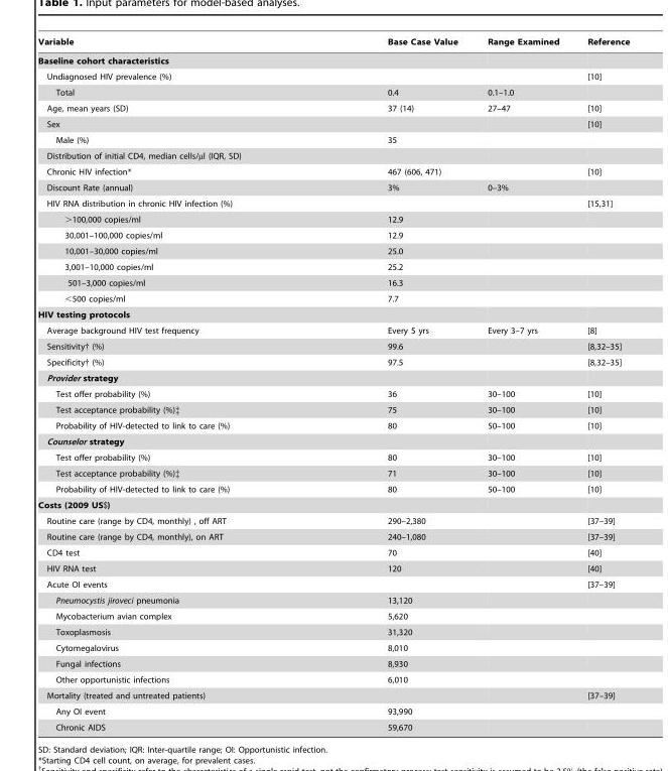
<table><thead><tr><td>Variable</td><td>Base Case Value</td><td>Range Examined</td><td>Reference</td></tr></thead><tbody><tr><td colspan="4">Baseline cohort characteristics</td></tr><tr><td colspan="2">Undiagnosed HIV prevalence (%)</td><td></td><td>[10]</td></tr><tr><td>Total</td><td>0.4</td><td>0.1–1.0</td><td></td></tr><tr><td>Age, mean years (SD)</td><td>37 (14)</td><td>27–47</td><td>[10]</td></tr><tr><td>Sex</td><td></td><td></td><td>[10]</td></tr><tr><td>Male (%)</td><td>35</td><td></td><td></td></tr><tr><td colspan="4">Distribution of initial CD4, median cells/µl (IQR, SD)</td></tr><tr><td>Chronic HIV infection*</td><td>467 (606, 471)</td><td></td><td>[10]</td></tr><tr><td>Discount Rate (annual)</td><td>3%</td><td>0–3%</td><td></td></tr><tr><td colspan="2">HIV RNA distribution in chronic HIV infection (%)</td><td></td><td>[15,31]</td></tr><tr><td>&gt;100,000 copies/ml</td><td>12.9</td><td></td><td></td></tr><tr><td>30,001–100,000 copies/ml</td><td>12.9</td><td></td><td></td></tr><tr><td>10,001–30,000 copies/ml</td><td>25.0</td><td></td><td></td></tr><tr><td>3,001–10,000 copies/ml</td><td>25.2</td><td></td><td></td></tr><tr><td>501–3,000 copies/ml</td><td>16.3</td><td></td><td></td></tr><tr><td>&lt;500 copies/ml</td><td>7.7</td><td></td><td></td></tr><tr><td colspan="4">HIV testing protocols</td></tr><tr><td>Average background HIV test frequency</td><td>Every 5 yrs</td><td>Every 3–7 yrs</td><td>[8]</td></tr><tr><td>Sensitivity† (%)</td><td>99.6</td><td></td><td>[8,32–35]</td></tr><tr><td>Specificity† (%)</td><td>97.5</td><td></td><td>[8,32–35]</td></tr><tr><td colspan="4">Provider strategy</td></tr><tr><td>Test offer probability (%)</td><td>36</td><td>30–100</td><td>[10]</td></tr><tr><td>Test acceptance probability (%)‡</td><td>75</td><td>30–100</td><td>[10]</td></tr><tr><td>Probability of HIV-detected to link to care (%)</td><td>80</td><td>50–100</td><td>[10]</td></tr><tr><td colspan="4">Counselor strategy</td></tr><tr><td>Test offer probability (%)</td><td>80</td><td>30–100</td><td>[10]</td></tr><tr><td>Test acceptance probability (%)‡</td><td>71</td><td>30–100</td><td>[10]</td></tr><tr><td>Probability of HIV-detected to link to care (%)</td><td>80</td><td>50–100</td><td>[10]</td></tr><tr><td colspan="4">Costs (2009 US$)</td></tr><tr><td>Routine care (range by CD4, monthly) , off ART</td><td>290–2,380</td><td></td><td>[37–39]</td></tr><tr><td>Routine care (range by CD4, monthly), on ART</td><td>240–1,080</td><td></td><td>[37–39]</td></tr><tr><td>CD4 test</td><td>70</td><td></td><td>[40]</td></tr><tr><td>HIV RNA test</td><td>120</td><td></td><td>[40]</td></tr><tr><td>Acute OI events</td><td></td><td></td><td>[37–39]</td></tr><tr><td>Pneumocystis jiroveci pneumonia</td><td>13,120</td><td></td><td></td></tr><tr><td>Mycobacterium avian complex</td><td>5,620</td><td></td><td></td></tr><tr><td>Toxoplasmosis</td><td>31,320</td><td></td><td></td></tr><tr><td>Cytomegalovirus</td><td>8,010</td><td></td><td></td></tr><tr><td>Fungal infections</td><td>8,930</td><td></td><td></td></tr><tr><td>Other opportunistic infections</td><td>6,010</td><td></td><td></td></tr><tr><td>Mortality (treated and untreated patients)</td><td></td><td></td><td>[37–39]</td></tr><tr><td>Any OI event</td><td>93,990</td><td></td><td></td></tr><tr><td>Chronic AIDS</td><td>59,670</td><td></td><td></td></tr></tbody></table>